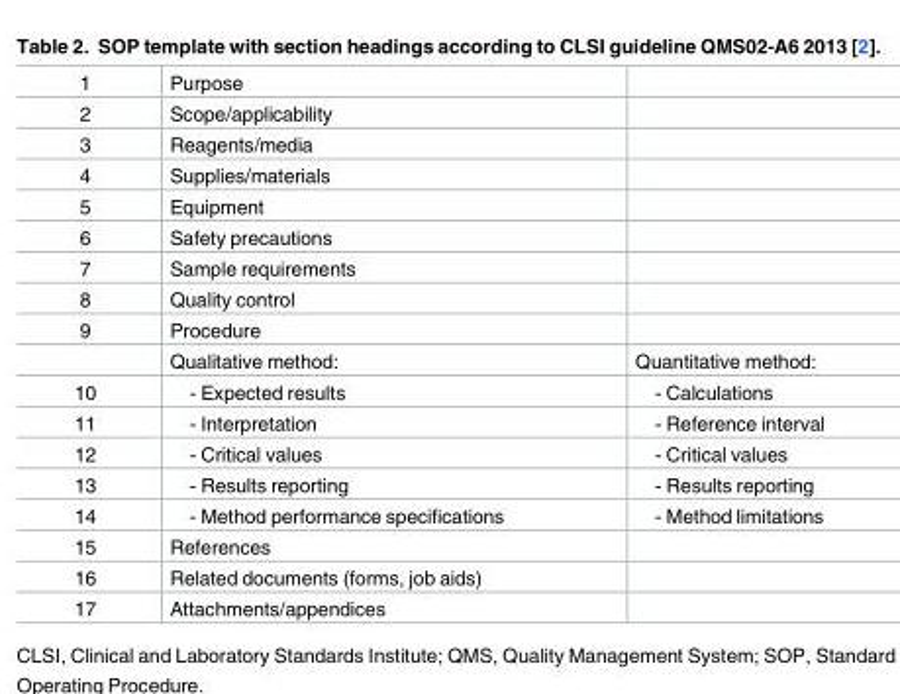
<table><tbody><tr><td>1</td><td>Purpose</td><td></td></tr><tr><td>2</td><td>Scope/applicability</td><td></td></tr><tr><td>3</td><td>Reagents/media</td><td></td></tr><tr><td>4</td><td>Supplies/materials</td><td></td></tr><tr><td>5</td><td>Equipment</td><td></td></tr><tr><td>6</td><td>Safety precautions</td><td></td></tr><tr><td>7</td><td>Sample requirements</td><td></td></tr><tr><td>8</td><td>Quality control</td><td></td></tr><tr><td rowspan="2">9</td><td>Procedure</td><td></td></tr><tr><td>Qualitative method:</td><td>Quantitative method:</td></tr><tr><td>10</td><td>- Expected results</td><td>- Calculations</td></tr><tr><td>11</td><td>- Interpretation</td><td>- Reference interval</td></tr><tr><td>12</td><td>- Critical values</td><td>- Critical values</td></tr><tr><td>13</td><td>- Results reporting</td><td>- Results reporting</td></tr><tr><td>14</td><td>- Method performance specifications</td><td>- Method limitations</td></tr><tr><td>15</td><td>References</td><td></td></tr><tr><td>16</td><td>Related documents (forms, job aids)</td><td></td></tr><tr><td>17</td><td>Attachments/appendices</td><td></td></tr></tbody></table>